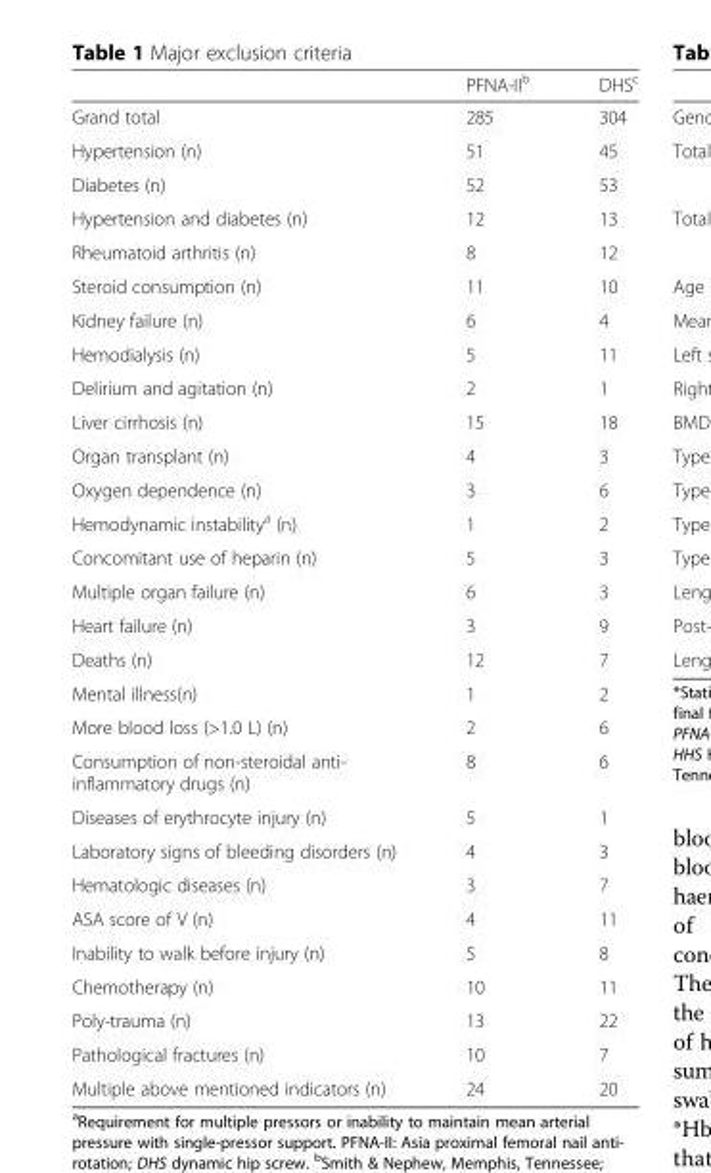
<table><thead><tr><td></td><td>PFNA-II<sup>b</sup></td><td>DHS<sup>c</sup></td></tr></thead><tbody><tr><td>Grand total</td><td>285</td><td>304</td></tr><tr><td>Hypertension (n)</td><td>51</td><td>45</td></tr><tr><td>Diabetes (n)</td><td>52</td><td>53</td></tr><tr><td>Hypertension and diabetes (n)</td><td>12</td><td>13</td></tr><tr><td>Rheumatoid arthritis (n)</td><td>8</td><td>12</td></tr><tr><td>Steroid consumption (n)</td><td>11</td><td>10</td></tr><tr><td>Kidney failure (n)</td><td>6</td><td>4</td></tr><tr><td>Hemodialysis (n)</td><td>5</td><td>11</td></tr><tr><td>Delirium and agitation (n)</td><td>2</td><td>1</td></tr><tr><td>Liver cirrhosis (n)</td><td>15</td><td>18</td></tr><tr><td>Organ transplant (n)</td><td>4</td><td>3</td></tr><tr><td>Oxygen dependence (n)</td><td>3</td><td>6</td></tr><tr><td>Hemodynamic instability<sup>a</sup> (n)</td><td>1</td><td>2</td></tr><tr><td>Concomitant use of heparin (n)</td><td>5</td><td>3</td></tr><tr><td>Multiple organ failure (n)</td><td>6</td><td>3</td></tr><tr><td>Heart failure (n)</td><td>3</td><td>9</td></tr><tr><td>Deaths (n)</td><td>12</td><td>7</td></tr><tr><td>Mental illness(n)</td><td>1</td><td>2</td></tr><tr><td>More blood loss (&gt;1.0 L) (n)</td><td>2</td><td>6</td></tr><tr><td>Consumption of non-steroidal anti- inflammatory drugs (n)</td><td>8</td><td>6</td></tr><tr><td>Diseases of erythrocyte injury (n)</td><td>5</td><td>1</td></tr><tr><td>Laboratory signs of bleeding disorders (n)</td><td>4</td><td>3</td></tr><tr><td>Hematologic diseases (n)</td><td>3</td><td>7</td></tr><tr><td>ASA score of V (n)</td><td>4</td><td>11</td></tr><tr><td>Inability to walk before injury (n)</td><td>5</td><td>8</td></tr><tr><td>Chemotherapy (n)</td><td>10</td><td>11</td></tr><tr><td>Poly-trauma (n)</td><td>13</td><td>22</td></tr><tr><td>Pathological fractures (n)</td><td>10</td><td>7</td></tr><tr><td>Multiple above mentioned indicators (n)</td><td>24</td><td>20</td></tr></tbody></table>